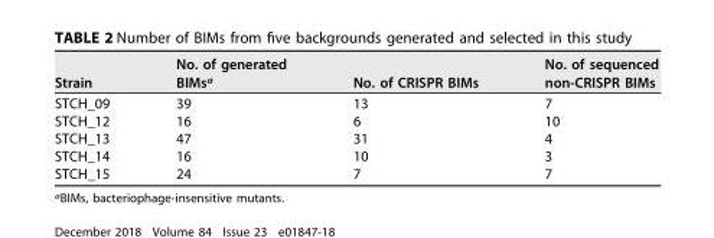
<table><thead><tr><td>Strain</td><td>No. of generated BIMs<sup>a</sup></td><td>No. of CRISPR BIMs</td><td>No. of sequenced non-CRISPR BIMs</td></tr></thead><tbody><tr><td>STCH_09</td><td>39</td><td>13</td><td>7</td></tr><tr><td>STCH_12</td><td>16</td><td>6</td><td>10</td></tr><tr><td>STCH_13</td><td>47</td><td>31</td><td>4</td></tr><tr><td>STCH_14</td><td>16</td><td>10</td><td>3</td></tr><tr><td>STCH_15</td><td>24</td><td>7</td><td>7</td></tr></tbody></table>